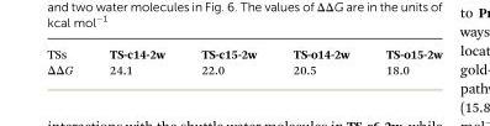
<table><tbody><tr><td>TSs</td><td>TS-c14-2w</td><td>TS-c15-2w</td><td>TS-o14-2w</td><td>TS-o15-2w</td></tr><tr><td>ΔΔG</td><td>24.1</td><td>22.0</td><td>20.5</td><td>18.0</td></tr></tbody></table>